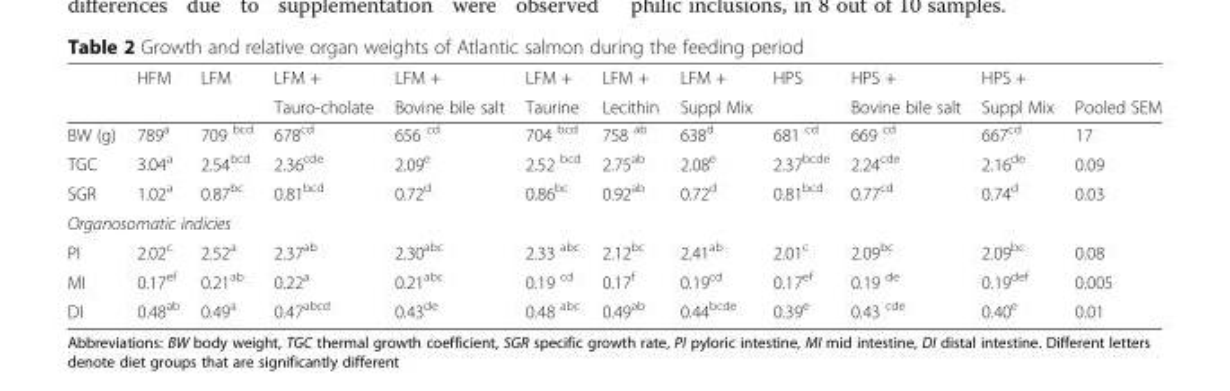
<table><thead><tr><td rowspan="2"></td><td rowspan="2">HFM</td><td rowspan="2">LFM</td><td rowspan="2">LFM + Tauro-cholate</td><td rowspan="2">LFM + Bovine bile salt</td><td rowspan="2">LFM + Taurine</td><td rowspan="2">LFM + Lecithin</td><td rowspan="2">LFM + Suppl Mix</td><td rowspan="2">HPS</td><td rowspan="2">HPS + Bovine bile salt</td><td rowspan="2">HPS + Suppl Mix</td><td rowspan="2">Pooled SEM</td></tr><tr></tr></thead><tbody><tr><td>BW (g)</td><td>789<sup>a</sup></td><td>709 <sup>bcd</sup></td><td>678<sup>cd</sup></td><td>656 <sup>cd</sup></td><td>704 <sup>bcd</sup></td><td>758 <sup>ab</sup></td><td>638<sup>d</sup></td><td>681 <sup>cd</sup></td><td>669 <sup>cd</sup></td><td>667<sup>cd</sup></td><td>17</td></tr><tr><td>TGC</td><td>3.04<sup>a</sup></td><td>2.54<sup>bcd</sup></td><td>2.36<sup>cde</sup></td><td>2.09<sup>e</sup></td><td>2.52 <sup>bcd</sup></td><td>2.75<sup>ab</sup></td><td>2.08<sup>e</sup></td><td>2.37<sup>bcde</sup></td><td>2.24<sup>cde</sup></td><td>2.16<sup>de</sup></td><td>0.09</td></tr><tr><td>SGR</td><td>1.02<sup>a</sup></td><td>0.87<sup>bc</sup></td><td>0.81<sup>bcd</sup></td><td>0.72<sup>d</sup></td><td>0.86<sup>bc</sup></td><td>0.92<sup>ab</sup></td><td>0.72<sup>d</sup></td><td>0.81<sup>bcd</sup></td><td>0.77<sup>cd</sup></td><td>0.74<sup>d</sup></td><td>0.03</td></tr><tr><td colspan="12">Organosomatic indicies</td></tr><tr><td>PI</td><td>2.02<sup>c</sup></td><td>2.52<sup>a</sup></td><td>2.37<sup>ab</sup></td><td>2.30<sup>abc</sup></td><td>2.33 <sup>abc</sup></td><td>2.12<sup>bc</sup></td><td>2.41<sup>ab</sup></td><td>2.01<sup>c</sup></td><td>2.09<sup>bc</sup></td><td>2.09<sup>bc</sup></td><td>0.08</td></tr><tr><td>MI</td><td>0.17<sup>ef</sup></td><td>0.21<sup>ab</sup></td><td>0.22<sup>a</sup></td><td>0.21<sup>abc</sup></td><td>0.19 <sup>cd</sup></td><td>0.17<sup>f</sup></td><td>0.19<sup>cd</sup></td><td>0.17<sup>ef</sup></td><td>0.19 <sup>de</sup></td><td>0.19<sup>def</sup></td><td>0.005</td></tr><tr><td>DI</td><td>0.48<sup>ab</sup></td><td>0.49<sup>a</sup></td><td>0.47<sup>abcd</sup></td><td>0.43<sup>de</sup></td><td>0.48 <sup>abc</sup></td><td>0.49<sup>ab</sup></td><td>0.44<sup>bcde</sup></td><td>0.39<sup>e</sup></td><td>0.43 <sup>cde</sup></td><td>0.40<sup>e</sup></td><td>0.01</td></tr></tbody></table>